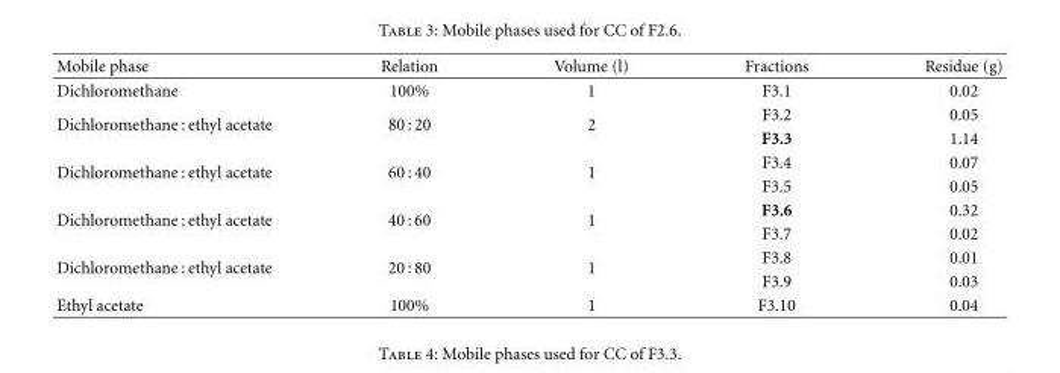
<table><thead><tr><td>Mobile phase</td><td>Relation</td><td>Volume (l)</td><td>Fractions</td><td>Residue (g)</td></tr></thead><tbody><tr><td>Dichloromethane</td><td>100%</td><td>1</td><td>F3.1</td><td>0.02</td></tr><tr><td rowspan="2">Dichloromethane : ethyl acetate</td><td rowspan="2">80 : 20</td><td rowspan="2">2</td><td>F3.2</td><td>0.05</td></tr><tr><td>F3.3</td><td>1.14</td></tr><tr><td rowspan="2">Dichloromethane : ethyl acetate</td><td rowspan="2">60 : 40</td><td rowspan="2">1</td><td>F3.4</td><td>0.07</td></tr><tr><td>F3.5</td><td>0.05</td></tr><tr><td rowspan="2">Dichloromethane : ethyl acetate</td><td rowspan="2">40 : 60</td><td rowspan="2">1</td><td>F3.6</td><td>0.32</td></tr><tr><td>F3.7</td><td>0.02</td></tr><tr><td rowspan="2">Dichloromethane : ethyl acetate</td><td rowspan="2">20 : 80</td><td rowspan="2">1</td><td>F3.8</td><td>0.01</td></tr><tr><td>F3.9</td><td>0.03</td></tr><tr><td>Ethyl acetate</td><td>100%</td><td>1</td><td>F3.10</td><td>0.04</td></tr></tbody></table>